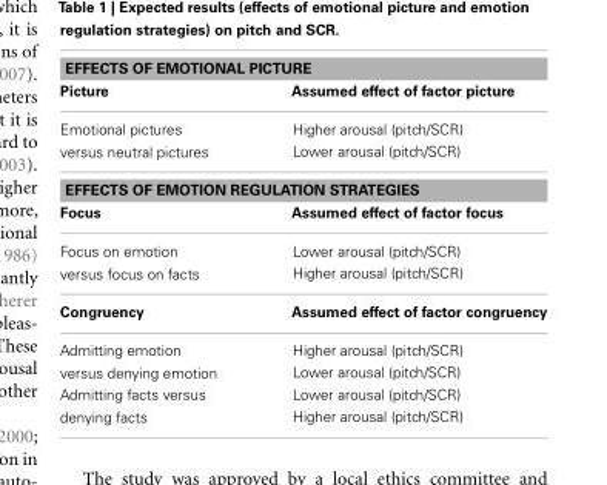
<table><thead><tr><td colspan="2">EFFECTS OF EMOTIONAL PICTURE</td></tr><tr><td>Picture</td><td>Assumed effect of factor picture</td></tr></thead><tbody><tr><td>Emotional pictures versus neutral pictures</td><td>Higher arousal (pitch/SCR) Lower arousal (pitch/SCR)</td></tr><tr><td colspan="2">EFFECTS OF EMOTION REGULATION STRATEGIES</td></tr><tr><td>Focus</td><td>Assumed effect of factor focus</td></tr><tr><td>Focus on emotion versus focus on facts</td><td>Lower arousal (pitch/SCR) Higher arousal (pitch/SCR)</td></tr><tr><td>Congruency</td><td>Assumed effect of factor congruency</td></tr><tr><td>Admitting emotion versus denying emotion</td><td>Higher arousal (pitch/SCR) Lower arousal (pitch/SCR)</td></tr><tr><td>Admitting facts versus denying facts</td><td>Lower arousal (pitch/SCR) Higher arousal (pitch/SCR)</td></tr></tbody></table>